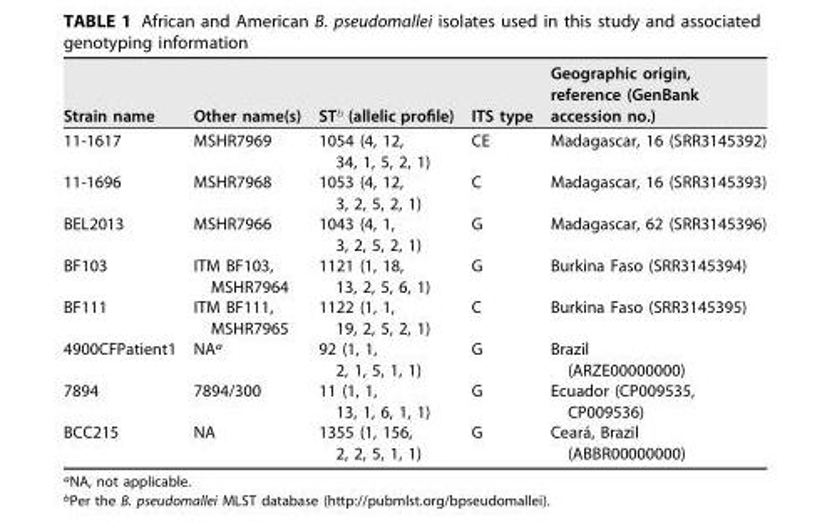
<table><thead><tr><td>Strain name</td><td>Other name(s)</td><td>ST<sup>b</sup> (allelic profile)</td><td>ITS type</td><td>Geographic origin, reference (GenBank accession no.)</td></tr></thead><tbody><tr><td>11-1617</td><td>MSHR7969</td><td>1054 (4, 12, 34, 1, 5, 2, 1)</td><td>CE</td><td>Madagascar, 16 (SRR3145392)</td></tr><tr><td>11-1696</td><td>MSHR7968</td><td>1053 (4, 12, 3, 2, 5, 2, 1)</td><td>C</td><td>Madagascar, 16 (SRR3145393)</td></tr><tr><td>BEL2013</td><td>MSHR7966</td><td>1043 (4, 1, 3, 2, 5, 2, 1)</td><td>G</td><td>Madagascar, 62 (SRR3145396)</td></tr><tr><td>BF103</td><td>ITM BF103, MSHR7964</td><td>1121 (1, 18, 13, 2, 5, 6, 1)</td><td>G</td><td>Burkina Faso (SRR3145394)</td></tr><tr><td>BF111</td><td>ITM BF111, MSHR7965</td><td>1122 (1, 1, 19, 2, 5, 2, 1)</td><td>C</td><td>Burkina Faso (SRR3145395)</td></tr><tr><td>4900CFPatient1</td><td>NA<sup>a</sup></td><td>92 (1, 1, 2, 1, 5, 1, 1)</td><td>G</td><td>Brazil (ARZE00000000)</td></tr><tr><td>7894</td><td>7894/300</td><td>11 (1, 1, 13, 1, 6, 1, 1)</td><td>G</td><td>Ecuador (CP009535, CP009536)</td></tr><tr><td>BCC215</td><td>NA</td><td>1355 (1, 156, 2, 2, 5, 1, 1)</td><td>G</td><td>Ceará, Brazil (ABBR00000000)</td></tr></tbody></table>